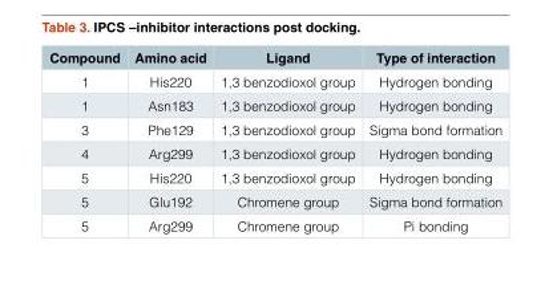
<table><thead><tr><td>Compound</td><td>Amino acid</td><td>Ligand</td><td>Type of interaction</td></tr></thead><tbody><tr><td>1</td><td>His220</td><td>1,3 benzodioxol group</td><td>Hydrogen bonding</td></tr><tr><td>1</td><td>Asn183</td><td>1,3 benzodioxol group</td><td>Hydrogen bonding</td></tr><tr><td>3</td><td>Phe129</td><td>1,3 benzodioxol group</td><td>Sigma bond formation</td></tr><tr><td>4</td><td>Arg299</td><td>1,3 benzodioxol group</td><td>Hydrogen bonding</td></tr><tr><td>5</td><td>His220</td><td>1,3 benzodioxol group</td><td>Hydrogen bonding</td></tr><tr><td>5</td><td>Glu192</td><td>Chromene group</td><td>Sigma bond formation</td></tr><tr><td>5</td><td>Arg299</td><td>Chromene group</td><td>Pi bonding</td></tr></tbody></table>